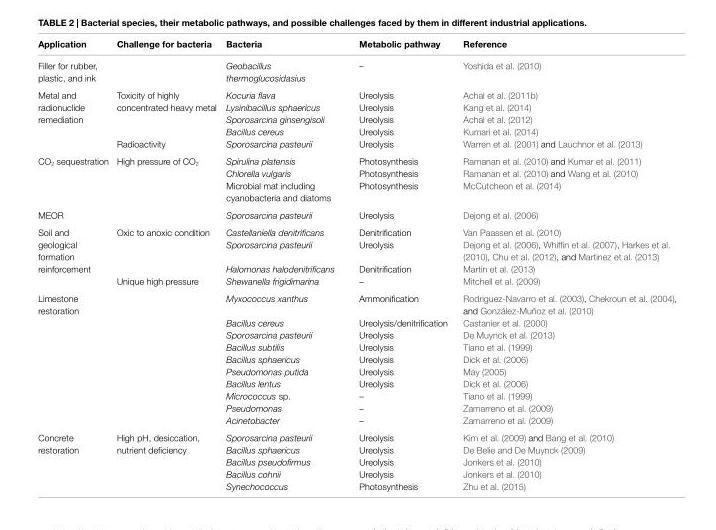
<table><thead><tr><td>Application</td><td>Challenge for bacteria</td><td>Bacteria</td><td>Metabolic pathway</td><td>Reference</td></tr></thead><tbody><tr><td>Filler for rubber, plastic, and ink</td><td></td><td>Geobacillus thermoglucosidasius</td><td>–</td><td>Yoshida et al. (2010)</td></tr><tr><td rowspan="5">Metal and radionuclide remediation</td><td rowspan="4">Toxicity of highly concentrated heavy metal</td><td>Kocuria flava</td><td>Ureolysis</td><td>Achal et al. (2011b)</td></tr><tr><td>Lysinibacillus sphaericus</td><td>Ureolysis</td><td>Kang et al. (2014)</td></tr><tr><td>Sporosarcina ginsengisoli</td><td>Ureolysis</td><td>Achal et al. (2012)</td></tr><tr><td>Bacillus cereus</td><td>Ureolysis</td><td>Kumari et al. (2014)</td></tr><tr><td>Radioactivity</td><td>Sporosarcina pasteurii</td><td>Ureolysis</td><td>Warren et al. (2001) and Lauchnor et al. (2013)</td></tr><tr><td rowspan="3">CO<sub>2</sub> sequestration</td><td rowspan="3">High pressure of CO<sub>2</sub></td><td>Spirulina platensis</td><td>Photosynthesis</td><td>Ramanan et al. (2010) and Kumar et al. (2011)</td></tr><tr><td>Chlorella vulgaris</td><td>Photosynthesis</td><td>Ramanan et al. (2010) and Wang et al. (2010)</td></tr><tr><td>Microbial mat including cyanobacteria and diatoms</td><td>Photosynthesis</td><td>McCutcheon et al. (2014)</td></tr><tr><td>MEOR</td><td></td><td>Sporosarcina pasteurii</td><td>Ureolysis</td><td>Dejong et al. (2006)</td></tr><tr><td rowspan="4">Soil and geological formation reinforcement</td><td rowspan="2">Oxic to anoxic condition</td><td>Castellaniella denitrificans</td><td>Denitrification</td><td>Van Paassen et al. (2010)</td></tr><tr><td>Sporosarcina pasteurii</td><td>Ureolysis</td><td>Dejong et al. (2006), Whiffin et al. (2007), Harkes et al. (2010), Chu et al. (2012), and Martinez et al. (2013)</td></tr><tr><td></td><td>Halomonas halodenitrificans</td><td>Denitrification</td><td>Martin et al. (2013)</td></tr><tr><td>Unique high pressure</td><td>Shewanella frigidimarina</td><td>–</td><td>Mitchell et al. (2009)</td></tr><tr><td rowspan="10">Limestone restoration</td><td rowspan="10"></td><td>Myxococcus xanthus</td><td>Ammonification</td><td>Rodriguez-Navarro et al. (2003), Chekroun et al. (2004), and González-Muñoz et al. (2010)</td></tr><tr><td>Bacillus cereus</td><td>Ureolysis/denitrification</td><td>Castanier et al. (2000)</td></tr><tr><td>Sporosarcina pasteurii</td><td>Ureolysis</td><td>De Muynck et al. (2013)</td></tr><tr><td>Bacillus subtilis</td><td>Ureolysis</td><td>Tiano et al. (1999)</td></tr><tr><td>Bacillus sphaericus</td><td>Ureolysis</td><td>Dick et al. (2006)</td></tr><tr><td>Pseudomonas putida</td><td>Ureolysis</td><td>May (2005)</td></tr><tr><td>Bacillus lentus</td><td>Ureolysis</td><td>Dick et al. (2006)</td></tr><tr><td>Micrococcus sp.</td><td>–</td><td>Tiano et al. (1999)</td></tr><tr><td>Pseudomonas</td><td>–</td><td>Zamarreno et al. (2009)</td></tr><tr><td>Acinetobacter</td><td>–</td><td>Zamarreno et al. (2009)</td></tr><tr><td rowspan="5">Concrete restoration</td><td rowspan="5">High pH, desiccation, nutrient deficiency</td><td>Sporosarcina pasteurii</td><td>Ureolysis</td><td>Kim et al. (2009) and Bang et al. (2010)</td></tr><tr><td>Bacillus sphaericus</td><td>Ureolysis</td><td>De Belie and De Muynck (2009)</td></tr><tr><td>Bacillus pseudofirmus</td><td>Ureolysis</td><td>Jonkers et al. (2010)</td></tr><tr><td>Bacillus cohnii</td><td>Ureolysis</td><td>Jonkers et al. (2010)</td></tr><tr><td>Synechococcus</td><td>Photosynthesis</td><td>Zhu et al. (2015)</td></tr></tbody></table>